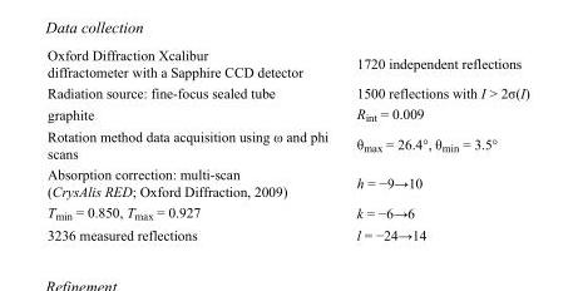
<table><tbody><tr><td>Oxford Diffraction Xcalibur diffractometer with a Sapphire CCD detector</td><td>1720 independent reflections</td></tr><tr><td>Radiation source: fine-focus sealed tube</td><td>1500 reflections with I &gt; 2σ(I)</td></tr><tr><td>graphite</td><td>R<sub>int</sub> = 0.009</td></tr><tr><td>Rotation method data acquisition using ω and phi scans</td><td>θ<sub>max</sub> = 26.4°, θ<sub>min</sub> = 3.5°</td></tr><tr><td>Absorption correction: multi-scan (CrysAlis RED; Oxford Diffraction, 2009)</td><td>h = −9→10</td></tr><tr><td>T<sub>min</sub> = 0.850, T<sub>max</sub> = 0.927</td><td>k = −6→6</td></tr><tr><td>3236 measured reflections</td><td>l = −24→14</td></tr></tbody></table>